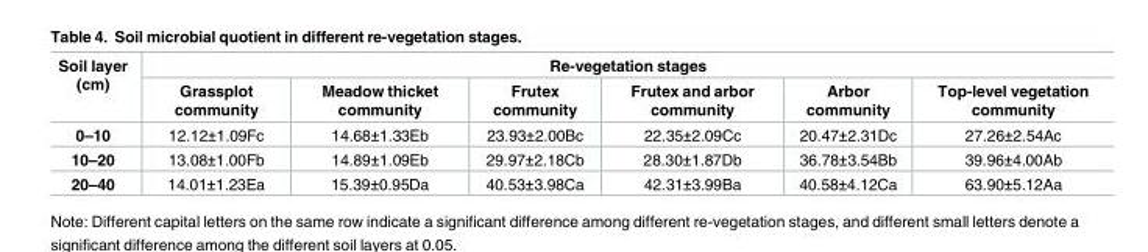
<table><thead><tr><td rowspan="2">Soil layer (cm)</td><td colspan="6">Re-vegetation stages</td></tr><tr><td>Grassplot community</td><td>Meadow thicket community</td><td>Frutex community</td><td>Frutex and arbor community</td><td>Arbor community</td><td>Top-level vegetation community</td></tr></thead><tbody><tr><td>0–10</td><td>12.12±1.09Fc</td><td>14.68±1.33Eb</td><td>23.93±2.00Bc</td><td>22.35±2.09Cc</td><td>20.47±2.31Dc</td><td>27.26±2.54Ac</td></tr><tr><td>10–20</td><td>13.08±1.00Fb</td><td>14.89±1.09Eb</td><td>29.97±2.18Cb</td><td>28.30±1.87Db</td><td>36.78±3.54Bb</td><td>39.96±4.00Ab</td></tr><tr><td>20–40</td><td>14.01±1.23Ea</td><td>15.39±0.95Da</td><td>40.53±3.98Ca</td><td>42.31±3.99Ba</td><td>40.58±4.12Ca</td><td>63.90±5.12Aa</td></tr></tbody></table>